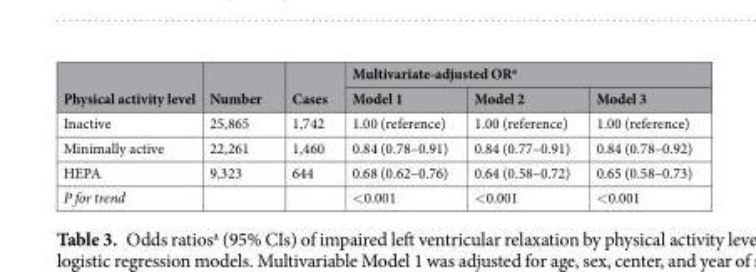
<table><thead><tr><td rowspan="2">Physical activity level</td><td rowspan="2">Number</td><td rowspan="2">Cases</td><td colspan="3">Multivariate-adjusted OR<sup>a</sup></td></tr><tr><td>Model 1</td><td>Model 2</td><td>Model 3</td></tr></thead><tbody><tr><td>Inactive</td><td>25,865</td><td>1,742</td><td>1.00 (reference)</td><td>1.00 (reference)</td><td>1.00 (reference)</td></tr><tr><td>Minimally active</td><td>22,261</td><td>1,460</td><td>0.84 (0.78–0.91)</td><td>0.84 (0.77–0.91)</td><td>0.84 (0.78–0.92)</td></tr><tr><td>HEPA</td><td>9,323</td><td>644</td><td>0.68 (0.62–0.76)</td><td>0.64 (0.58–0.72)</td><td>0.65 (0.58–0.73)</td></tr><tr><td>P for trend</td><td></td><td></td><td>&lt;0.001</td><td>&lt;0.001</td><td>&lt;0.001</td></tr></tbody></table>